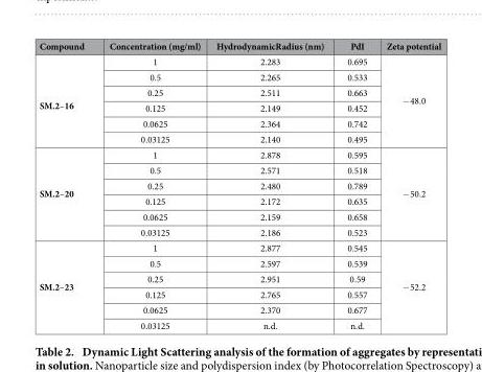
<table><thead><tr><td>Compound</td><td>Concentration (mg/ml)</td><td>HydrodynamicRadius (nm)</td><td>PdI</td><td>Zeta potential</td></tr></thead><tbody><tr><td rowspan="6">SM.2–16</td><td>1</td><td>2.283</td><td>0.695</td><td rowspan="6">− 48.0</td></tr><tr><td>0.5</td><td>2.265</td><td>0.533</td></tr><tr><td>0.25</td><td>2.511</td><td>0.663</td></tr><tr><td>0.125</td><td>2.149</td><td>0.452</td></tr><tr><td>0.0625</td><td>2.364</td><td>0.742</td></tr><tr><td>0.03125</td><td>2.140</td><td>0.495</td></tr><tr><td rowspan="6">SM.2–20</td><td>1</td><td>2.878</td><td>0.595</td><td rowspan="6">− 50.2</td></tr><tr><td>0.5</td><td>2.571</td><td>0.518</td></tr><tr><td>0.25</td><td>2.480</td><td>0.789</td></tr><tr><td>0.125</td><td>2.172</td><td>0.635</td></tr><tr><td>0.0625</td><td>2.159</td><td>0.658</td></tr><tr><td>0.03125</td><td>2.186</td><td>0.523</td></tr><tr><td rowspan="6">SM.2–23</td><td>1</td><td>2.877</td><td>0.545</td><td rowspan="6">− 52.2</td></tr><tr><td>0.5</td><td>2.597</td><td>0.539</td></tr><tr><td>0.25</td><td>2.951</td><td>0.59</td></tr><tr><td>0.125</td><td>2.765</td><td>0.557</td></tr><tr><td>0.0625</td><td>2.370</td><td>0.677</td></tr><tr><td>0.03125</td><td>n.d.</td><td>n.d.</td></tr></tbody></table>